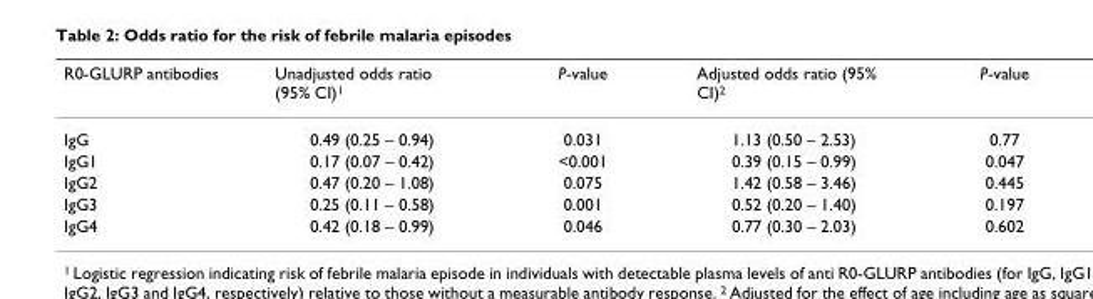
<table><thead><tr><td>R0-GLURP antibodies</td><td>Unadjusted odds ratio (95% CI)<sup>1</sup></td><td>P-value</td><td>Adjusted odds ratio (95% CI)<sup>2</sup></td><td>P-value</td></tr></thead><tbody><tr><td>IgG</td><td>0.49 (0.25 – 0.94)</td><td>0.031</td><td>1.13 (0.50 – 2.53)</td><td>0.77</td></tr><tr><td>IgG1</td><td>0.17 (0.07 – 0.42)</td><td>&lt;0.001</td><td>0.39 (0.15 – 0.99)</td><td>0.047</td></tr><tr><td>IgG2</td><td>0.47 (0.20 – 1.08)</td><td>0.075</td><td>1.42 (0.58 – 3.46)</td><td>0.445</td></tr><tr><td>IgG3</td><td>0.25 (0.11 – 0.58)</td><td>0.001</td><td>0.52 (0.20 – 1.40)</td><td>0.197</td></tr><tr><td>IgG4</td><td>0.42 (0.18 – 0.99)</td><td>0.046</td><td>0.77 (0.30 – 2.03)</td><td>0.602</td></tr></tbody></table>